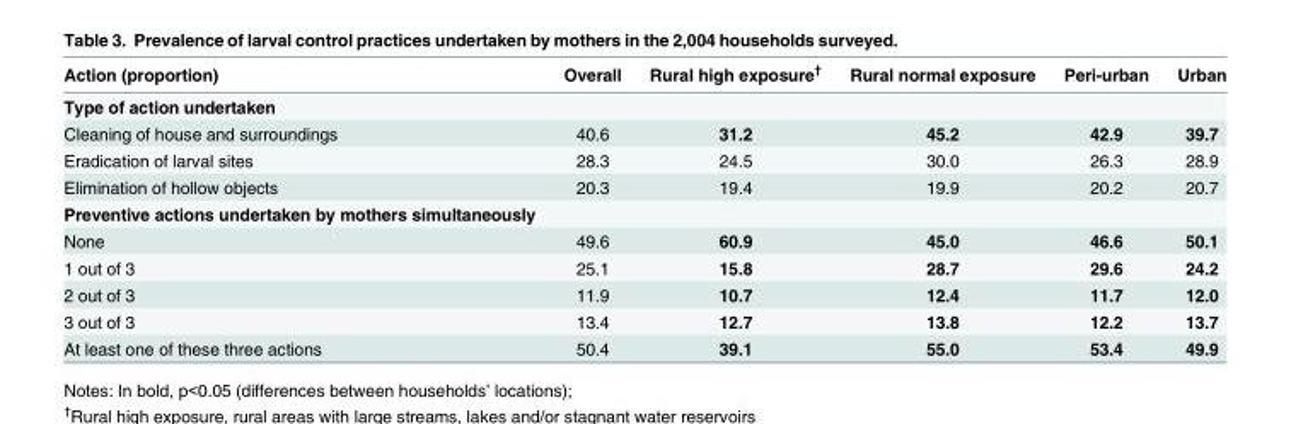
<table><thead><tr><td>Action (proportion)</td><td>Overall</td><td>Rural high exposure<sup>†</sup></td><td>Rural normal exposure</td><td>Peri-urban</td><td>Urban</td></tr></thead><tbody><tr><td colspan="6">Type of action undertaken</td></tr><tr><td>Cleaning of house and surroundings</td><td>40.6</td><td>31.2</td><td>45.2</td><td>42.9</td><td>39.7</td></tr><tr><td>Eradication of larval sites</td><td>28.3</td><td>24.5</td><td>30.0</td><td>26.3</td><td>28.9</td></tr><tr><td>Elimination of hollow objects</td><td>20.3</td><td>19.4</td><td>19.9</td><td>20.2</td><td>20.7</td></tr><tr><td colspan="6">Preventive actions undertaken by mothers simultaneously</td></tr><tr><td>None</td><td>49.6</td><td>60.9</td><td>45.0</td><td>46.6</td><td>50.1</td></tr><tr><td>1 out of 3</td><td>25.1</td><td>15.8</td><td>28.7</td><td>29.6</td><td>24.2</td></tr><tr><td>2 out of 3</td><td>11.9</td><td>10.7</td><td>12.4</td><td>11.7</td><td>12.0</td></tr><tr><td>3 out of 3</td><td>13.4</td><td>12.7</td><td>13.8</td><td>12.2</td><td>13.7</td></tr><tr><td>At least one of these three actions</td><td>50.4</td><td>39.1</td><td>55.0</td><td>53.4</td><td>49.9</td></tr></tbody></table>